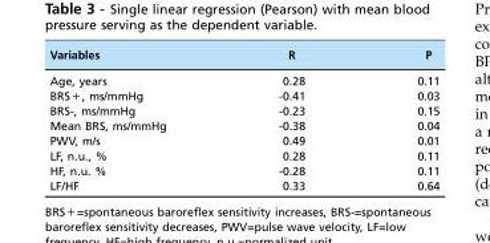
<table><thead><tr><td>Variables</td><td>R</td><td>P</td></tr></thead><tbody><tr><td>Age, years</td><td>0.28</td><td>0.11</td></tr><tr><td>BRS+, ms/mmHg</td><td>-0.41</td><td>0.03</td></tr><tr><td>BRS-, ms/mmHg</td><td>-0.23</td><td>0.15</td></tr><tr><td>Mean BRS, ms/mmHg</td><td>-0.38</td><td>0.04</td></tr><tr><td>PWV, m/s</td><td>0.49</td><td>0.01</td></tr><tr><td>LF, n.u., %</td><td>0.28</td><td>0.11</td></tr><tr><td>HF, n.u. %</td><td>-0.28</td><td>0.11</td></tr><tr><td>LF/HF</td><td>0.33</td><td>0.64</td></tr></tbody></table>